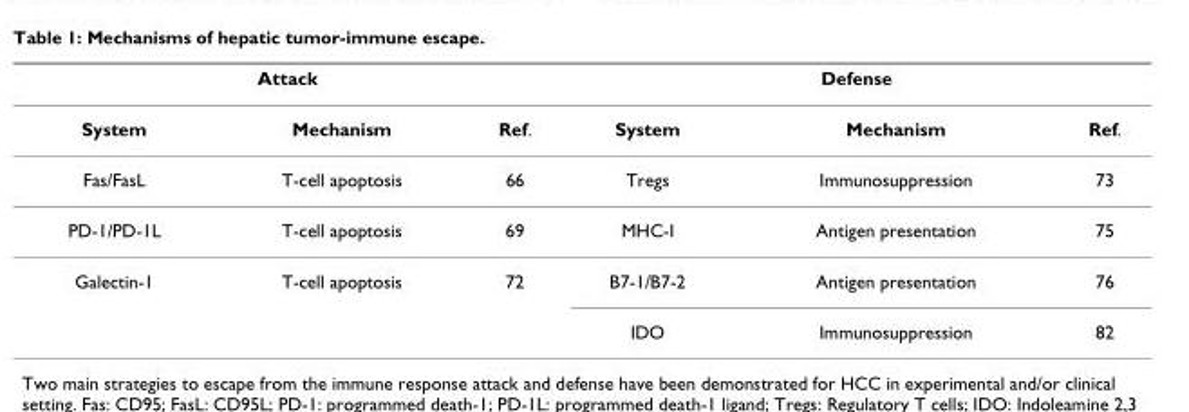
<table><thead><tr><td colspan="3">Attack</td><td colspan="3">Defense</td></tr><tr><td>System</td><td>Mechanism</td><td>Ref.</td><td>System</td><td>Mechanism</td><td>Ref.</td></tr></thead><tbody><tr><td>Fas/FasL</td><td>T-cell apoptosis</td><td>66</td><td>Tregs</td><td>Immunosuppression</td><td>73</td></tr><tr><td>PD-1/PD-1L</td><td>T-cell apoptosis</td><td>69</td><td>MHC-I</td><td>Antigen presentation</td><td>75</td></tr><tr><td rowspan="2">Galectin-1</td><td>T-cell apoptosis</td><td>72</td><td>B7-1/B7-2</td><td>Antigen presentation</td><td>76</td></tr><tr><td></td><td></td><td>IDO</td><td>Immunosuppression</td><td>82</td></tr></tbody></table>